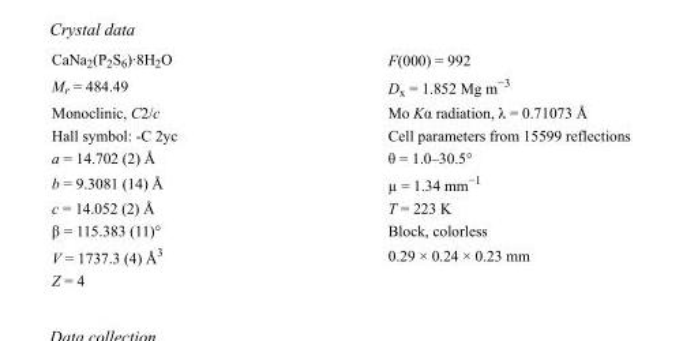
<table><tbody><tr><td>CaNa<sub>2</sub>(P<sub>2</sub>S<sub>6</sub>)·8H<sub>2</sub>O</td><td>F(000) = 992</td></tr><tr><td>M<sub>r</sub> = 484.49</td><td>D<sub>x</sub> = 1.852 Mg m<sup>−3</sup></td></tr><tr><td>Monoclinic, C2/c</td><td>Mo Kα radiation, λ = 0.71073 Å</td></tr><tr><td>Hall symbol: -C 2yc</td><td>Cell parameters from 15599 reflections</td></tr><tr><td>a = 14.702 (2) Å</td><td>θ = 1.0–30.5°</td></tr><tr><td>b = 9.3081 (14) Å</td><td>µ = 1.34 mm<sup>−1</sup></td></tr><tr><td>c = 14.052 (2) Å</td><td>T = 223 K</td></tr><tr><td>β = 115.383 (11)°</td><td>Block, colorless</td></tr><tr><td>V = 1737.3 (4) Å<sup>3</sup></td><td>0.29 × 0.24 × 0.23 mm</td></tr><tr><td>Z = 4</td><td></td></tr></tbody></table>